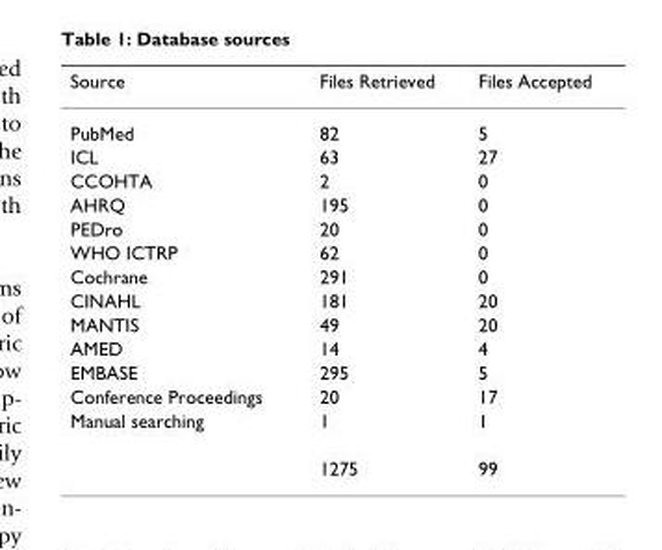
<table><thead><tr><td>Source</td><td>Files Retrieved</td><td>Files Accepted</td></tr></thead><tbody><tr><td>PubMed</td><td>82</td><td>5</td></tr><tr><td>ICL</td><td>63</td><td>27</td></tr><tr><td>CCOHTA</td><td>2</td><td>0</td></tr><tr><td>AHRQ</td><td>195</td><td>0</td></tr><tr><td>PEDro</td><td>20</td><td>0</td></tr><tr><td>WHO ICTRP</td><td>62</td><td>0</td></tr><tr><td>Cochrane</td><td>291</td><td>0</td></tr><tr><td>CINAHL</td><td>181</td><td>20</td></tr><tr><td>MANTIS</td><td>49</td><td>20</td></tr><tr><td>AMED</td><td>14</td><td>4</td></tr><tr><td>EMBASE</td><td>295</td><td>5</td></tr><tr><td>Conference Proceedings</td><td>20</td><td>17</td></tr><tr><td rowspan="2">Manual searching</td><td>1</td><td>1</td></tr><tr><td>1275</td><td>99</td></tr></tbody></table>